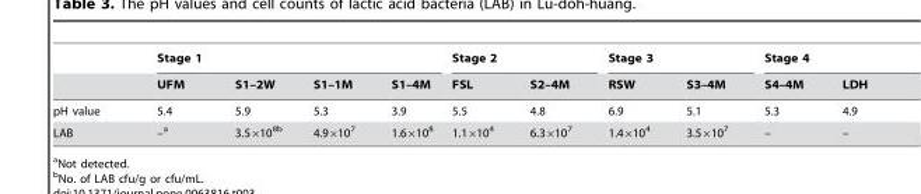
<table><thead><tr><td rowspan="2"></td><td colspan="4">Stage 1</td><td colspan="2">Stage 2</td><td colspan="2">Stage 3</td><td colspan="2">Stage 4</td></tr><tr><td>UFM</td><td>S1–2W</td><td>S1–1M</td><td>S1–4M</td><td>FSL</td><td>S2–4M</td><td>RSW</td><td>S3–4M</td><td>S4–4M</td><td>LDH</td></tr></thead><tbody><tr><td>pH value</td><td>5.4</td><td>5.9</td><td>5.3</td><td>3.9</td><td>5.5</td><td>4.8</td><td>6.9</td><td>5.1</td><td>5.3</td><td>4.9</td></tr><tr><td>LAB</td><td>–a</td><td>3.5×10<sup>8b</sup></td><td>4.9×10<sup>7</sup></td><td>1.6×10<sup>8</sup></td><td>1.1×10<sup>4</sup></td><td>6.3×10<sup>7</sup></td><td>1.4×10<sup>4</sup></td><td>3.5×10<sup>7</sup></td><td>–</td><td>–</td></tr></tbody></table>